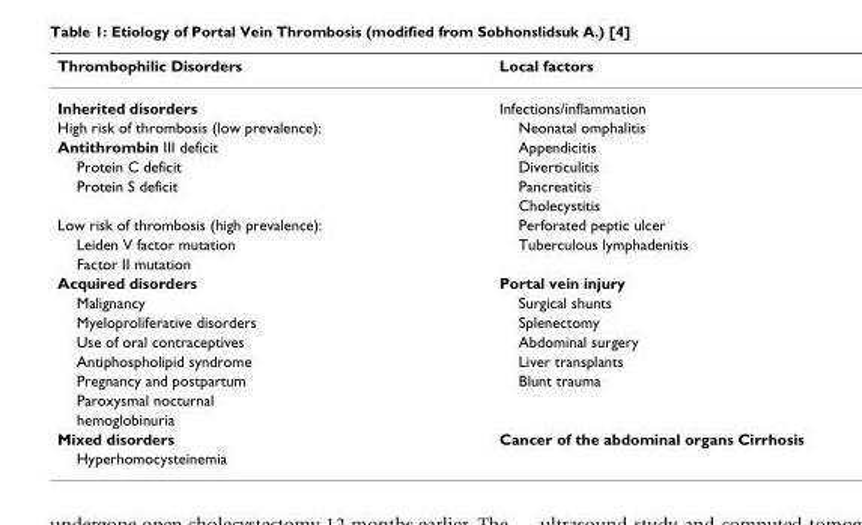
<table><thead><tr><td>Thrombophilic Disorders</td><td>Local factors</td></tr></thead><tbody><tr><td>Inherited disorders</td><td>Infections/inflammation</td></tr><tr><td>High risk of thrombosis (low prevalence):</td><td>Neonatal omphalitis</td></tr><tr><td>Antithrombin III deficit</td><td>Appendicitis</td></tr><tr><td>Protein C deficit</td><td>Diverticulitis</td></tr><tr><td rowspan="2">Protein S deficit</td><td>Pancreatitis</td></tr><tr><td>Cholecystitis</td></tr><tr><td>Low risk of thrombosis (high prevalence):</td><td>Perforated peptic ulcer</td></tr><tr><td>Leiden V factor mutation</td><td>Tuberculous lymphadenitis</td></tr><tr><td colspan="2">Factor II mutation</td></tr><tr><td>Acquired disorders</td><td>Portal vein injury</td></tr><tr><td>Malignancy</td><td>Surgical shunts</td></tr><tr><td>Myeloproliferative disorders</td><td>Splenectomy</td></tr><tr><td>Use of oral contraceptives</td><td>Abdominal surgery</td></tr><tr><td>Antiphospholipid syndrome</td><td>Liver transplants</td></tr><tr><td>Pregnancy and postpartum</td><td>Blunt trauma</td></tr><tr><td colspan="2">Paroxysmal nocturnal</td></tr><tr><td colspan="2">hemoglobinuria</td></tr><tr><td>Mixed disorders</td><td>Cancer of the abdominal organs Cirrhosis</td></tr><tr><td>Hyperhomocysteinemia</td><td></td></tr></tbody></table>